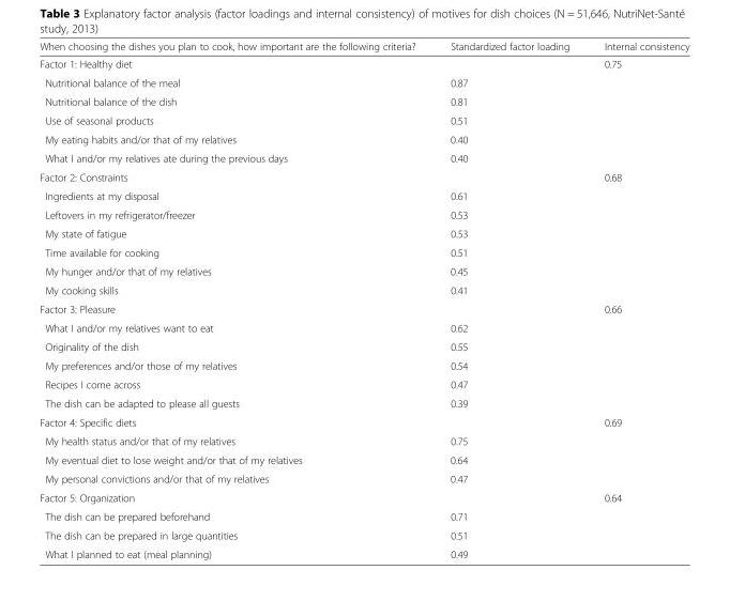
<table><thead><tr><td>When choosing the dishes you plan to cook, how important are the following criteria?</td><td>Standardized factor loading</td><td>Internal consistency</td></tr></thead><tbody><tr><td>Factor 1: Healthy diet</td><td></td><td>0.75</td></tr><tr><td>Nutritional balance of the meal</td><td>0.87</td><td></td></tr><tr><td>Nutritional balance of the dish</td><td>0.81</td><td></td></tr><tr><td>Use of seasonal products</td><td>0.51</td><td></td></tr><tr><td>My eating habits and/or that of my relatives</td><td>0.40</td><td></td></tr><tr><td>What I and/or my relatives ate during the previous days</td><td>0.40</td><td></td></tr><tr><td>Factor 2: Constraints</td><td></td><td>0.68</td></tr><tr><td>Ingredients at my disposal</td><td>0.61</td><td></td></tr><tr><td>Leftovers in my refrigerator/freezer</td><td>0.53</td><td></td></tr><tr><td>My state of fatigue</td><td>0.53</td><td></td></tr><tr><td>Time available for cooking</td><td>0.51</td><td></td></tr><tr><td>My hunger and/or that of my relatives</td><td>0.45</td><td></td></tr><tr><td>My cooking skills</td><td>0.41</td><td></td></tr><tr><td>Factor 3: Pleasure</td><td></td><td>0.66</td></tr><tr><td>What I and/or my relatives want to eat</td><td>0.62</td><td></td></tr><tr><td>Originality of the dish</td><td>0.55</td><td></td></tr><tr><td>My preferences and/or those of my relatives</td><td>0.54</td><td></td></tr><tr><td>Recipes I come across</td><td>0.47</td><td></td></tr><tr><td>The dish can be adapted to please all guests</td><td>0.39</td><td></td></tr><tr><td>Factor 4: Specific diets</td><td></td><td>0.69</td></tr><tr><td>My health status and/or that of my relatives</td><td>0.75</td><td></td></tr><tr><td>My eventual diet to lose weight and/or that of my relatives</td><td>0.64</td><td></td></tr><tr><td>My personal convictions and/or that of my relatives</td><td>0.47</td><td></td></tr><tr><td>Factor 5: Organization</td><td></td><td>0.64</td></tr><tr><td>The dish can be prepared beforehand</td><td>0.71</td><td></td></tr><tr><td>The dish can be prepared in large quantities</td><td>0.51</td><td></td></tr><tr><td>What I planned to eat (meal planning)</td><td>0.49</td><td></td></tr></tbody></table>